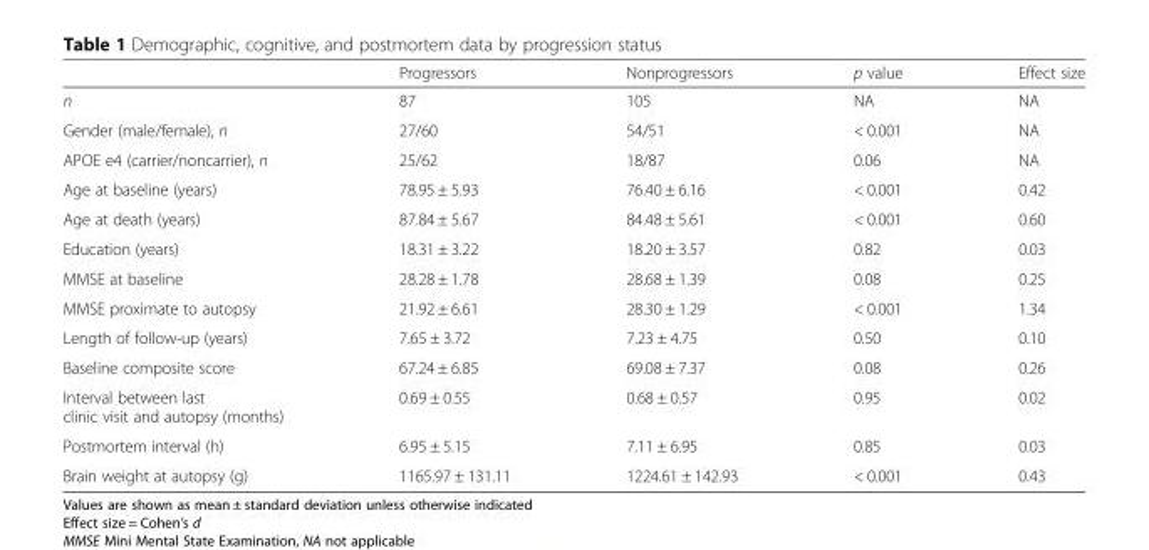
<table><thead><tr><td></td><td>Progressors</td><td>Nonprogressors</td><td>p value</td><td>Effect size</td></tr></thead><tbody><tr><td>n</td><td>87</td><td>105</td><td>NA</td><td>NA</td></tr><tr><td>Gender (male/female), n</td><td>27/60</td><td>54/51</td><td>&lt; 0.001</td><td>NA</td></tr><tr><td>APOE e4 (carrier/noncarrier), n</td><td>25/62</td><td>18/87</td><td>0.06</td><td>NA</td></tr><tr><td>Age at baseline (years)</td><td>78.95 ± 5.93</td><td>76.40 ± 6.16</td><td>&lt; 0.001</td><td>0.42</td></tr><tr><td>Age at death (years)</td><td>87.84 ± 5.67</td><td>84.48 ± 5.61</td><td>&lt; 0.001</td><td>0.60</td></tr><tr><td>Education (years)</td><td>18.31 ± 3.22</td><td>18.20 ± 3.57</td><td>0.82</td><td>0.03</td></tr><tr><td>MMSE at baseline</td><td>28.28 ± 1.78</td><td>28.68 ± 1.39</td><td>0.08</td><td>0.25</td></tr><tr><td>MMSE proximate to autopsy</td><td>21.92 ± 6.61</td><td>28.30 ± 1.29</td><td>&lt; 0.001</td><td>1.34</td></tr><tr><td>Length of follow-up (years)</td><td>7.65 ± 3.72</td><td>7.23 ± 4.75</td><td>0.50</td><td>0.10</td></tr><tr><td>Baseline composite score</td><td>67.24 ± 6.85</td><td>69.08 ± 7.37</td><td>0.08</td><td>0.26</td></tr><tr><td>Interval between last clinic visit and autopsy (months)</td><td>0.69 ± 0.55</td><td>0.68 ± 0.57</td><td>0.95</td><td>0.02</td></tr><tr><td>Postmortem interval (h)</td><td>6.95 ± 5.15</td><td>7.11 ± 6.95</td><td>0.85</td><td>0.03</td></tr><tr><td>Brain weight at autopsy (g)</td><td>1165.97 ± 131.11</td><td>1224.61 ± 142.93</td><td>&lt; 0.001</td><td>0.43</td></tr></tbody></table>